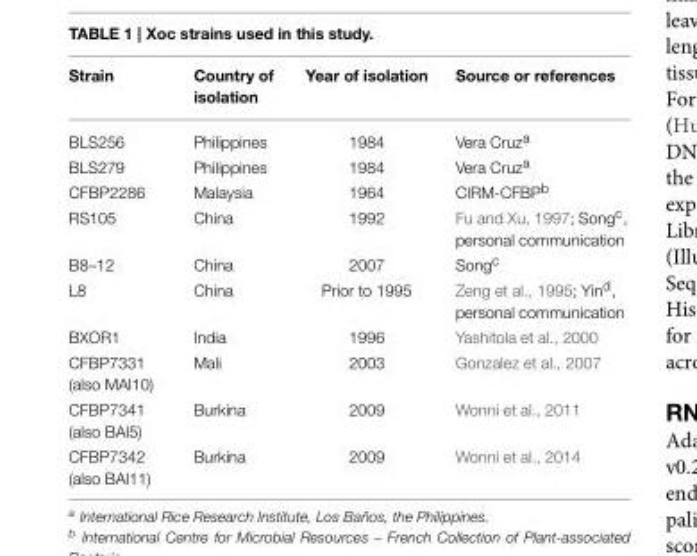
<table><thead><tr><td>Strain</td><td>Country of isolation</td><td>Year of isolation</td><td>Source or references</td></tr></thead><tbody><tr><td>BLS256</td><td>Philippines</td><td>1984</td><td>Vera Cruz<sup>a</sup></td></tr><tr><td>BLS279</td><td>Philippines</td><td>1984</td><td>Vera Cruz<sup>a</sup></td></tr><tr><td>CFBP2286</td><td>Malaysia</td><td>1964</td><td>CIRM-CFBP<sup>b</sup></td></tr><tr><td>RS105</td><td>China</td><td>1992</td><td>Fu and Xu, 1997; Song<sup>c</sup>, personal communication</td></tr><tr><td>B8–12</td><td>China</td><td>2007</td><td>Song<sup>c</sup></td></tr><tr><td>L8</td><td>China</td><td>Prior to 1995</td><td>Zeng et al., 1995; Yin<sup>d</sup>, personal communication</td></tr><tr><td>BXOR1</td><td>India</td><td>1996</td><td>Yashitola et al., 2000</td></tr><tr><td>CFBP7331 (also MAI10)</td><td>Mali</td><td>2003</td><td>Gonzalez et al., 2007</td></tr><tr><td>CFBP7341 (also BAI5)</td><td>Burkina</td><td>2009</td><td>Wonni et al., 2011</td></tr><tr><td>CFBP7342 (also BAI11)</td><td>Burkina</td><td>2009</td><td>Wonni et al., 2014</td></tr></tbody></table>